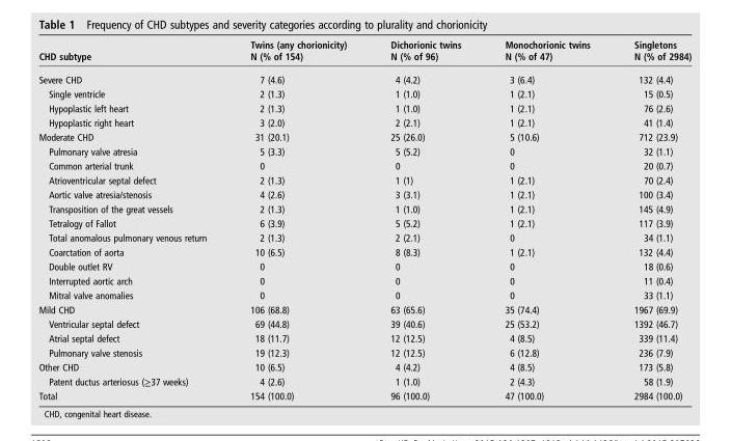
<table><thead><tr><td>CHD subtype</td><td>Twins (any chorionicity) N (% of 154)</td><td>Dichorionic twins N (% of 96)</td><td>Monochorionic twins N (% of 47)</td><td>Singletons N (% of 2984)</td></tr></thead><tbody><tr><td>Severe CHD</td><td>7 (4.6)</td><td>4 (4.2)</td><td>3 (6.4)</td><td>132 (4.4)</td></tr><tr><td>Single ventricle</td><td>2 (1.3)</td><td>1 (1.0)</td><td>1 (2.1)</td><td>15 (0.5)</td></tr><tr><td>Hypoplastic left heart</td><td>2 (1.3)</td><td>1 (1.0)</td><td>1 (2.1)</td><td>76 (2.6)</td></tr><tr><td>Hypoplastic right heart</td><td>3 (2.0)</td><td>2 (2.1)</td><td>1 (2.1)</td><td>41 (1.4)</td></tr><tr><td>Moderate CHD</td><td>31 (20.1)</td><td>25 (26.0)</td><td>5 (10.6)</td><td>712 (23.9)</td></tr><tr><td>Pulmonary valve atresia</td><td>5 (3.3)</td><td>5 (5.2)</td><td>0</td><td>32 (1.1)</td></tr><tr><td>Common arterial trunk</td><td>0</td><td>0</td><td>0</td><td>20 (0.7)</td></tr><tr><td>Atrioventricular septal defect</td><td>2 (1.3)</td><td>1 (1)</td><td>1 (2.1)</td><td>70 (2.4)</td></tr><tr><td>Aortic valve atresia/stenosis</td><td>4 (2.6)</td><td>3 (3.1)</td><td>1 (2.1)</td><td>100 (3.4)</td></tr><tr><td>Transposition of the great vessels</td><td>2 (1.3)</td><td>1 (1.0)</td><td>1 (2.1)</td><td>145 (4.9)</td></tr><tr><td>Tetralogy of Fallot</td><td>6 (3.9)</td><td>5 (5.2)</td><td>1 (2.1)</td><td>117 (3.9)</td></tr><tr><td>Total anomalous pulmonary venous return</td><td>2 (1.3)</td><td>2 (2.1)</td><td>0</td><td>34 (1.1)</td></tr><tr><td>Coarctation of aorta</td><td>10 (6.5)</td><td>8 (8.3)</td><td>1 (2.1)</td><td>132 (4.4)</td></tr><tr><td>Double outlet RV</td><td>0</td><td>0</td><td>0</td><td>18 (0.6)</td></tr><tr><td>Interrupted aortic arch</td><td>0</td><td>0</td><td>0</td><td>11 (0.4)</td></tr><tr><td>Mitral valve anomalies</td><td>0</td><td>0</td><td>0</td><td>33 (1.1)</td></tr><tr><td>Mild CHD</td><td>106 (68.8)</td><td>63 (65.6)</td><td>35 (74.4)</td><td>1967 (69.9)</td></tr><tr><td>Ventricular septal defect</td><td>69 (44.8)</td><td>39 (40.6)</td><td>25 (53.2)</td><td>1392 (46.7)</td></tr><tr><td>Atrial septal defect</td><td>18 (11.7)</td><td>12 (12.5)</td><td>4 (8.5)</td><td>339 (11.4)</td></tr><tr><td>Pulmonary valve stenosis</td><td>19 (12.3)</td><td>12 (12.5)</td><td>6 (12.8)</td><td>236 (7.9)</td></tr><tr><td>Other CHD</td><td>10 (6.5)</td><td>4 (4.2)</td><td>4 (8.5)</td><td>173 (5.8)</td></tr><tr><td>Patent ductus arteriosus (≥37 weeks)</td><td>4 (2.6)</td><td>1 (1.0)</td><td>2 (4.3)</td><td>58 (1.9)</td></tr><tr><td>Total</td><td>154 (100.0)</td><td>96 (100.0)</td><td>47 (100.0)</td><td>2984 (100.0)</td></tr></tbody></table>